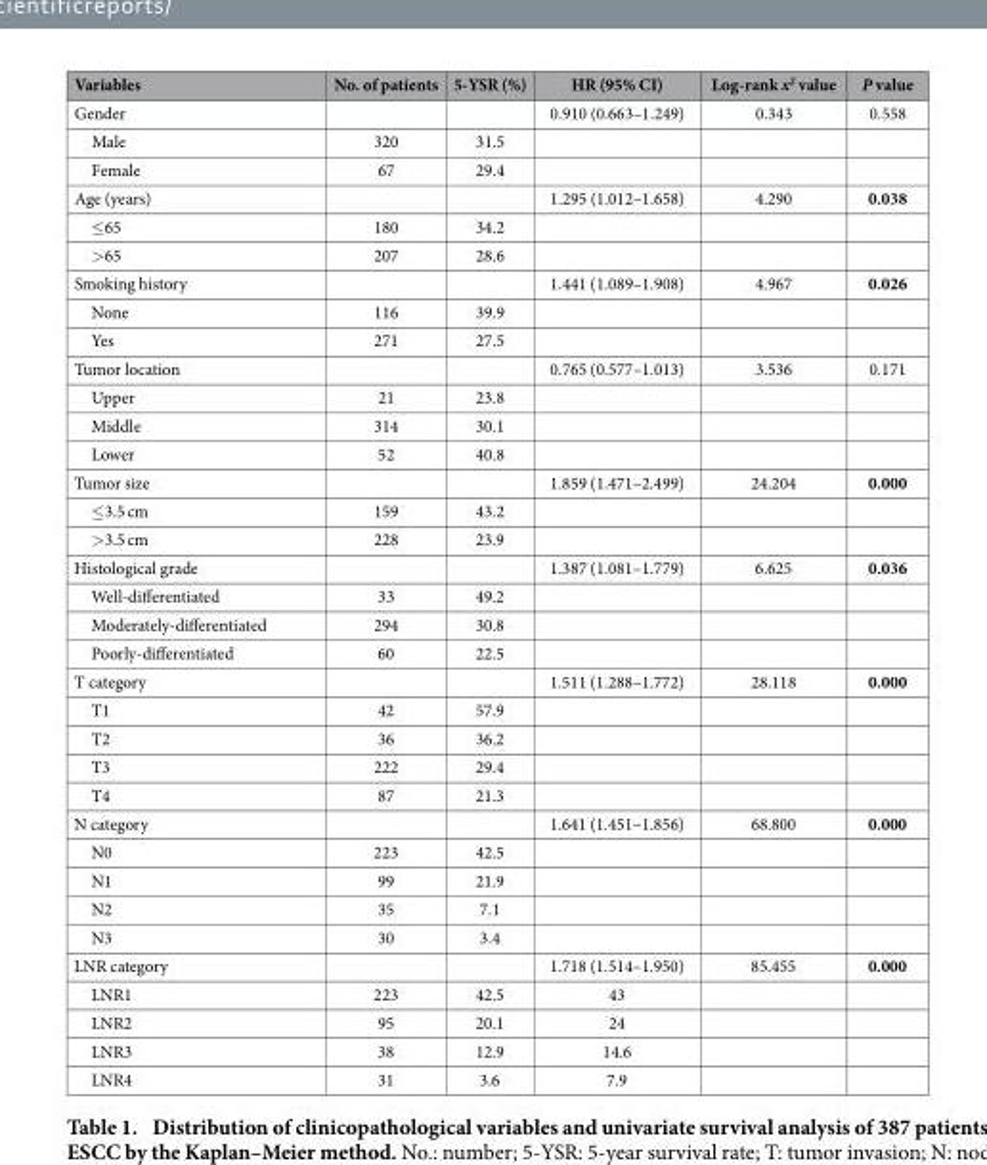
<table><thead><tr><td>Variables</td><td>No. of patients</td><td>5-YSR (%)</td><td>HR (95% CI)</td><td>Log-rank x<sup>2</sup> value</td><td>P value</td></tr></thead><tbody><tr><td>Gender</td><td></td><td></td><td>0.910 (0.663–1.249)</td><td>0.343</td><td>0.558</td></tr><tr><td>Male</td><td>320</td><td>31.5</td><td></td><td></td><td></td></tr><tr><td>Female</td><td>67</td><td>29.4</td><td></td><td></td><td></td></tr><tr><td>Age (years)</td><td></td><td></td><td>1.295 (1.012–1.658)</td><td>4.290</td><td>0.038</td></tr><tr><td>≤ 65</td><td>180</td><td>34.2</td><td></td><td></td><td></td></tr><tr><td>&gt; 65</td><td>207</td><td>28.6</td><td></td><td></td><td></td></tr><tr><td>Smoking history</td><td></td><td></td><td>1.441 (1.089–1.908)</td><td>4.967</td><td>0.026</td></tr><tr><td>None</td><td>116</td><td>39.9</td><td></td><td></td><td></td></tr><tr><td>Yes</td><td>271</td><td>27.5</td><td></td><td></td><td></td></tr><tr><td>Tumor location</td><td></td><td></td><td>0.765 (0.577–1.013)</td><td>3.536</td><td>0.171</td></tr><tr><td>Upper</td><td>21</td><td>23.8</td><td></td><td></td><td></td></tr><tr><td>Middle</td><td>314</td><td>30.1</td><td></td><td></td><td></td></tr><tr><td>Lower</td><td>52</td><td>40.8</td><td></td><td></td><td></td></tr><tr><td>Tumor size</td><td></td><td></td><td>1.859 (1.471–2.499)</td><td>24.204</td><td>0.000</td></tr><tr><td>≤ 3.5 cm</td><td>159</td><td>43.2</td><td></td><td></td><td></td></tr><tr><td>&gt; 3.5 cm</td><td>228</td><td>23.9</td><td></td><td></td><td></td></tr><tr><td>Histological grade</td><td></td><td></td><td>1.387 (1.081–1.779)</td><td>6.625</td><td>0.036</td></tr><tr><td>Well-differentiated</td><td>33</td><td>49.2</td><td></td><td></td><td></td></tr><tr><td>Moderately-differentiated</td><td>294</td><td>30.8</td><td></td><td></td><td></td></tr><tr><td>Poorly-differentiated</td><td>60</td><td>22.5</td><td></td><td></td><td></td></tr><tr><td>T category</td><td></td><td></td><td>1.511 (1.288–1.772)</td><td>28.118</td><td>0.000</td></tr><tr><td>T1</td><td>42</td><td>57.9</td><td></td><td></td><td></td></tr><tr><td>T2</td><td>36</td><td>36.2</td><td></td><td></td><td></td></tr><tr><td>T3</td><td>222</td><td>29.4</td><td></td><td></td><td></td></tr><tr><td>T4</td><td>87</td><td>21.3</td><td></td><td></td><td></td></tr><tr><td>N category</td><td></td><td></td><td>1.641 (1.451–1.856)</td><td>68.800</td><td>0.000</td></tr><tr><td>N0</td><td>223</td><td>42.5</td><td></td><td></td><td></td></tr><tr><td>N1</td><td>99</td><td>21.9</td><td></td><td></td><td></td></tr><tr><td>N2</td><td>35</td><td>7.1</td><td></td><td></td><td></td></tr><tr><td>N3</td><td>30</td><td>3.4</td><td></td><td></td><td></td></tr><tr><td>LNR category</td><td></td><td></td><td>1.718 (1.514–1.950)</td><td>85.455</td><td>0.000</td></tr><tr><td>LNR1</td><td>223</td><td>42.5</td><td>43</td><td></td><td></td></tr><tr><td>LNR2</td><td>95</td><td>20.1</td><td>24</td><td></td><td></td></tr><tr><td>LNR3</td><td>38</td><td>12.9</td><td>14.6</td><td></td><td></td></tr><tr><td>LNR4</td><td>31</td><td>3.6</td><td>7.9</td><td></td><td></td></tr></tbody></table>